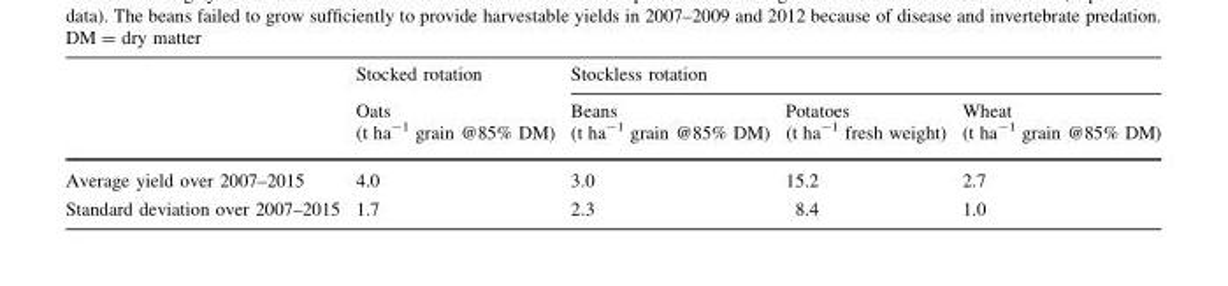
<table><thead><tr><td rowspan="2"></td><td rowspan="2">Stocked rotation Oats (t ha<sup>-1</sup> grain @85% DM)</td><td colspan="3">Stockless rotation</td></tr><tr><td>Beans (t ha<sup>-1</sup> grain @85% DM)</td><td>Potatoes (t ha<sup>-1</sup> fresh weight)</td><td>Wheat (t ha<sup>-1</sup> grain @85% DM)</td></tr></thead><tbody><tr><td>Average yield over 2007–2015</td><td>4.0</td><td>3.0</td><td>15.2</td><td>2.7</td></tr><tr><td>Standard deviation over 2007–2015</td><td>1.7</td><td>2.3</td><td>8.4</td><td>1.0</td></tr></tbody></table>